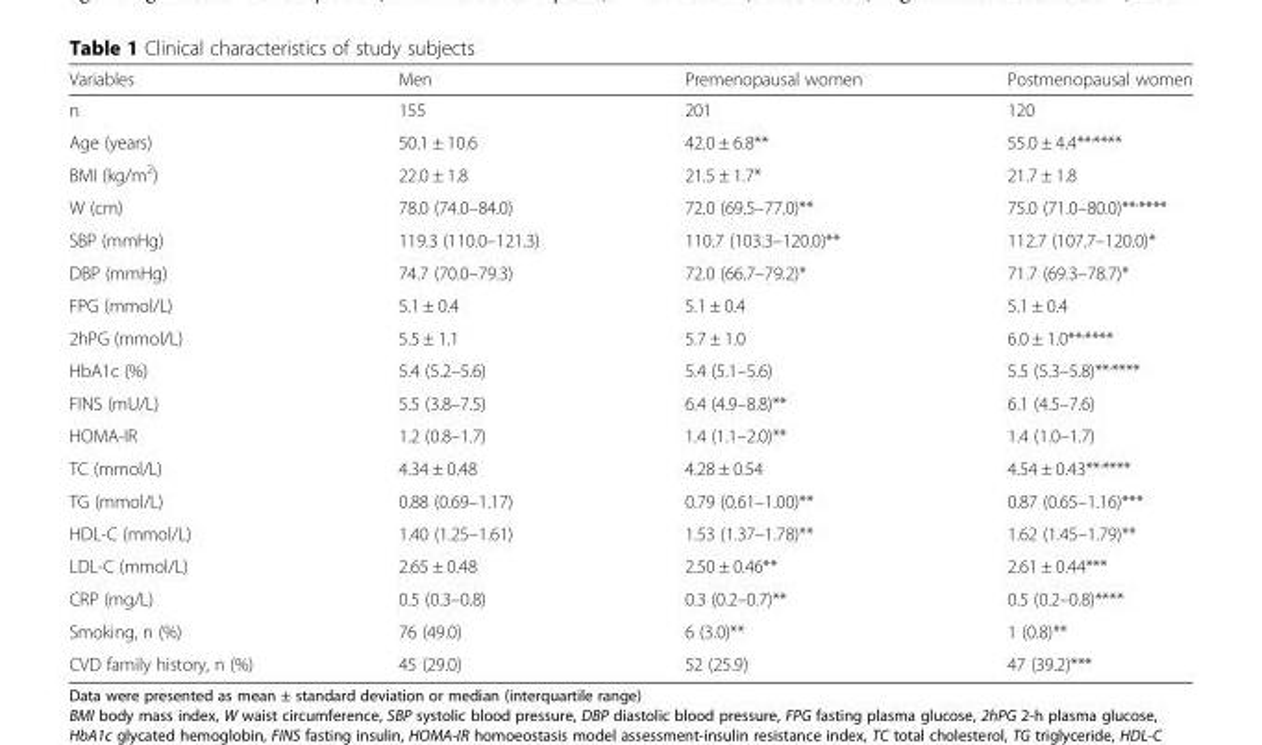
<table><thead><tr><td>Variables</td><td>Men</td><td>Premenopausal women</td><td>Postmenopausal women</td></tr></thead><tbody><tr><td>n</td><td>155</td><td>201</td><td>120</td></tr><tr><td>Age (years)</td><td>50.1 ± 10.6</td><td>42.0 ± 6.8**</td><td>55.0 ± 4.4**<sup>,</sup>****</td></tr><tr><td>BMI (kg/m<sup>2</sup>)</td><td>22.0 ± 1.8</td><td>21.5 ± 1.7*</td><td>21.7 ± 1.8</td></tr><tr><td>W (cm)</td><td>78.0 (74.0–84.0)</td><td>72.0 (69.5–77.0)**</td><td>75.0 (71.0–80.0)**<sup>,</sup>****</td></tr><tr><td>SBP (mmHg)</td><td>119.3 (110.0–121.3)</td><td>110.7 (103.3–120.0)**</td><td>112.7 (107.7–120.0)*</td></tr><tr><td>DBP (mmHg)</td><td>74.7 (70.0–79.3)</td><td>72.0 (66.7–79.2)*</td><td>71.7 (69.3–78.7)*</td></tr><tr><td>FPG (mmol/L)</td><td>5.1 ± 0.4</td><td>5.1 ± 0.4</td><td>5.1 ± 0.4</td></tr><tr><td>2hPG (mmol/L)</td><td>5.5 ± 1.1</td><td>5.7 ± 1.0</td><td>6.0 ± 1.0**<sup>,</sup>****</td></tr><tr><td>HbA1c (%)</td><td>5.4 (5.2–5.6)</td><td>5.4 (5.1–5.6)</td><td>5.5 (5.3–5.8)**<sup>,</sup>****</td></tr><tr><td>FINS (mU/L)</td><td>5.5 (3.8–7.5)</td><td>6.4 (4.9–8.8)**</td><td>6.1 (4.5–7.6)</td></tr><tr><td>HOMA-IR</td><td>1.2 (0.8–1.7)</td><td>1.4 (1.1–2.0)**</td><td>1.4 (1.0–1.7)</td></tr><tr><td>TC (mmol/L)</td><td>4.34 ± 0.48</td><td>4.28 ± 0.54</td><td>4.54 ± 0.43**<sup>,</sup>****</td></tr><tr><td>TG (mmol/L)</td><td>0.88 (0.69–1.17)</td><td>0.79 (0.61–1.00)**</td><td>0.87 (0.65–1.16)***</td></tr><tr><td>HDL-C (mmol/L)</td><td>1.40 (1.25–1.61)</td><td>1.53 (1.37–1.78)**</td><td>1.62 (1.45–1.79)**</td></tr><tr><td>LDL-C (mmol/L)</td><td>2.65 ± 0.48</td><td>2.50 ± 0.46**</td><td>2.61 ± 0.44***</td></tr><tr><td>CRP (mg/L)</td><td>0.5 (0.3–0.8)</td><td>0.3 (0.2–0.7)**</td><td>0.5 (0.2–0.8)****</td></tr><tr><td>Smoking, n (%)</td><td>76 (49.0)</td><td>6 (3.0)**</td><td>1 (0.8)**</td></tr><tr><td>CVD family history, n (%)</td><td>45 (29.0)</td><td>52 (25.9)</td><td>47 (39.2)***</td></tr></tbody></table>